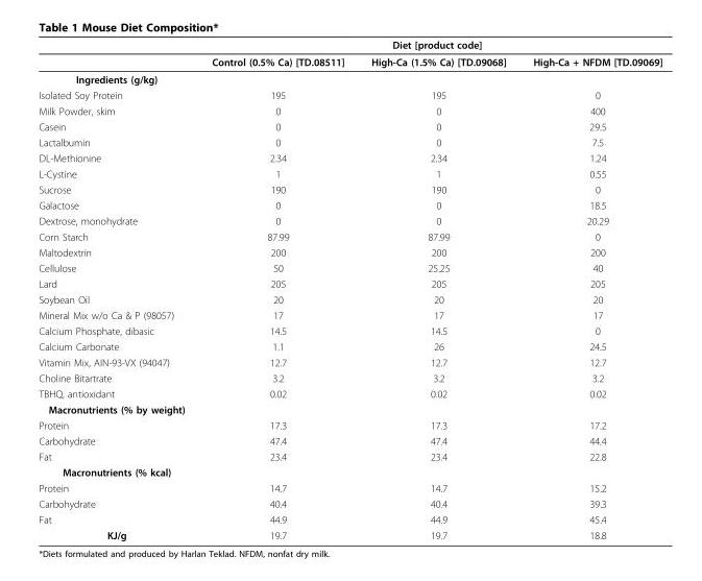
<table><thead><tr><td rowspan="2"></td><td colspan="3">Diet [product code]</td></tr><tr><td>Control (0.5% Ca) [TD.08511]</td><td>High-Ca (1.5% Ca) [TD.09068]</td><td>High-Ca + NFDM [TD.09069]</td></tr></thead><tbody><tr><td colspan="4">Ingredients (g/kg)</td></tr><tr><td>Isolated Soy Protein</td><td>195</td><td>195</td><td>0</td></tr><tr><td>Milk Powder, skim</td><td>0</td><td>0</td><td>400</td></tr><tr><td>Casein</td><td>0</td><td>0</td><td>29.5</td></tr><tr><td>Lactalbumin</td><td>0</td><td>0</td><td>7.5</td></tr><tr><td>DL-Methionine</td><td>2.34</td><td>2.34</td><td>1.24</td></tr><tr><td>L-Cystine</td><td>1</td><td>1</td><td>0.55</td></tr><tr><td>Sucrose</td><td>190</td><td>190</td><td>0</td></tr><tr><td>Galactose</td><td>0</td><td>0</td><td>18.5</td></tr><tr><td>Dextrose, monohydrate</td><td>0</td><td>0</td><td>20.29</td></tr><tr><td>Corn Starch</td><td>87.99</td><td>87.99</td><td>0</td></tr><tr><td>Maltodextrin</td><td>200</td><td>200</td><td>200</td></tr><tr><td>Cellulose</td><td>50</td><td>25.25</td><td>40</td></tr><tr><td>Lard</td><td>205</td><td>205</td><td>205</td></tr><tr><td>Soybean Oil</td><td>20</td><td>20</td><td>20</td></tr><tr><td>Mineral Mix w/o Ca &amp; P (98057)</td><td>17</td><td>17</td><td>17</td></tr><tr><td>Calcium Phosphate, dibasic</td><td>14.5</td><td>14.5</td><td>0</td></tr><tr><td>Calcium Carbonate</td><td>1.1</td><td>26</td><td>24.5</td></tr><tr><td>Vitamin Mix, AIN-93-VX (94047)</td><td>12.7</td><td>12.7</td><td>12.7</td></tr><tr><td>Choline Bitartrate</td><td>3.2</td><td>3.2</td><td>3.2</td></tr><tr><td>TBHQ, antioxidant</td><td>0.02</td><td>0.02</td><td>0.02</td></tr><tr><td colspan="4">Macronutrients (% by weight)</td></tr><tr><td>Protein</td><td>17.3</td><td>17.3</td><td>17.2</td></tr><tr><td>Carbohydrate</td><td>47.4</td><td>47.4</td><td>44.4</td></tr><tr><td>Fat</td><td>23.4</td><td>23.4</td><td>22.8</td></tr><tr><td colspan="4">Macronutrients (% kcal)</td></tr><tr><td>Protein</td><td>14.7</td><td>14.7</td><td>15.2</td></tr><tr><td>Carbohydrate</td><td>40.4</td><td>40.4</td><td>39.3</td></tr><tr><td>Fat</td><td>44.9</td><td>44.9</td><td>45.4</td></tr><tr><td>KJ/g</td><td>19.7</td><td>19.7</td><td>18.8</td></tr></tbody></table>